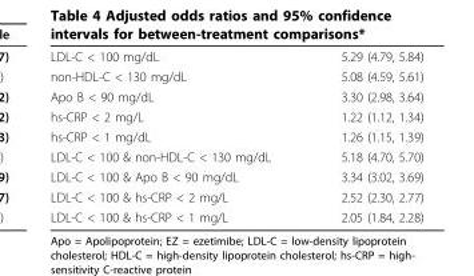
<table><tbody><tr><td>LDL-C &lt; 100 mg/dL</td><td>5.29 (4.79, 5.84)</td></tr><tr><td>non-HDL-C &lt; 130 mg/dL</td><td>5.08 (4.59, 5.61)</td></tr><tr><td>Apo B &lt; 90 mg/dL</td><td>3.30 (2.98, 3.64)</td></tr><tr><td>hs-CRP &lt; 2 mg/L</td><td>1.22 (1.12, 1.34)</td></tr><tr><td>hs-CRP &lt; 1 mg/dL</td><td>1.26 (1.15, 1.39)</td></tr><tr><td>LDL-C &lt; 100 &amp; non-HDL-C &lt; 130 mg/dL</td><td>5.18 (4.70, 5.70)</td></tr><tr><td>LDL-C &lt; 100 &amp; Apo B &lt; 90 mg/dL</td><td>3.34 (3.02, 3.69)</td></tr><tr><td>LDL-C &lt; 100 &amp; hs-CRP &lt; 2 mg/L</td><td>2.52 (2.30, 2.77)</td></tr><tr><td>LDL-C &lt; 100 &amp; hs-CRP &lt; 1 mg/L</td><td>2.05 (1.84, 2.28)</td></tr></tbody></table>